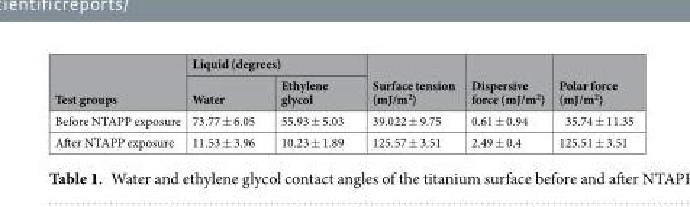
<table><thead><tr><td rowspan="2">Test groups</td><td colspan="2">Liquid (degrees)</td><td rowspan="2">Surface tension (mJ/m<sup>2</sup>)</td><td rowspan="2">Dispersive force (mJ/m<sup>2</sup>)</td><td rowspan="2">Polar force (mJ/m<sup>2</sup>)</td></tr><tr><td>Water</td><td>Ethylene glycol</td></tr></thead><tbody><tr><td>Before NTAPP exposure</td><td>73.77 ± 6.05</td><td>55.93 ± 5.03</td><td>39.022 ± 9.75</td><td>0.61 ± 0.94</td><td>35.74 ± 11.35</td></tr><tr><td>After NTAPP exposure</td><td>11.53 ± 3.96</td><td>10.23 ± 1.89</td><td>125.57 ± 3.51</td><td>2.49 ± 0.4</td><td>125.51 ± 3.51</td></tr></tbody></table>